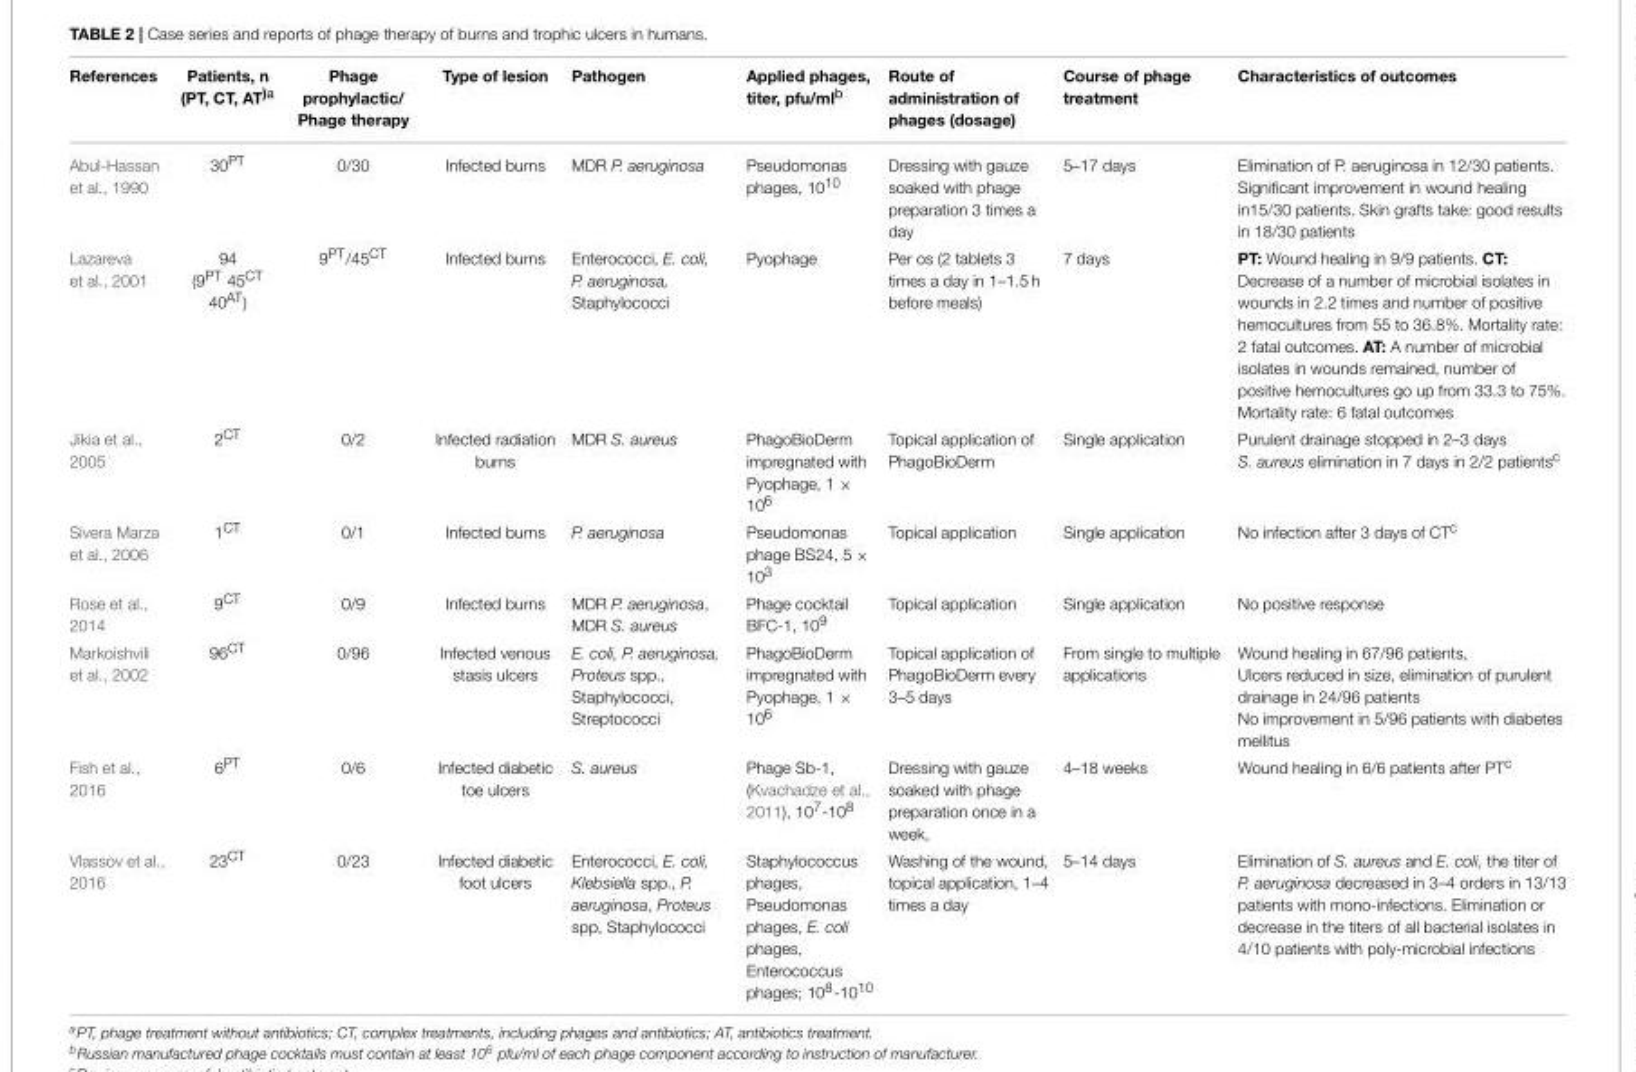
<table><thead><tr><td>References</td><td>Patients, n (PT, CT, AT)<sup>a</sup></td><td>Phage prophylactic/ Phage therapy</td><td>Type of lesion</td><td>Pathogen</td><td>Applied phages, titer, pfu/ml<sup>b</sup></td><td>Route of administration of phages (dosage)</td><td>Course of phage treatment</td><td>Characteristics of outcomes</td></tr></thead><tbody><tr><td>Abul-Hassan et al., 1990</td><td>30<sup>PT</sup></td><td>0/30</td><td>Infected burns</td><td>MDR P. aeruginosa</td><td>Pseudomonas phages, 10<sup>10</sup></td><td>Dressing with gauze soaked with phage preparation 3 times a day</td><td>5–17 days</td><td>Elimination of P. aeruginosa in 12/30 patients. Significant improvement in wound healing in15/30 patients. Skin grafts take: good results in 18/30 patients</td></tr><tr><td>Lazareva et al., 2001</td><td>94 (9<sup>PT</sup> 45<sup>CT</sup> 40<sup>AT</sup>)</td><td>9<sup>PT</sup>/45<sup>CT</sup></td><td>Infected burns</td><td>Enterococci, E. coli, P. aeruginosa, Staphylococci</td><td>Pyophage</td><td>Per os (2 tablets 3 times a day in 1–1.5 h before meals)</td><td>7 days</td><td>PT: Wound healing in 9/9 patients. CT: Decrease of a number of microbial isolates in wounds in 2.2 times and number of positive hemocultures from 55 to 36.8%. Mortality rate: 2 fatal outcomes. AT: A number of microbial isolates in wounds remained, number of positive hemocultures go up from 33.3 to 75%. Mortality rate: 6 fatal outcomes</td></tr><tr><td>Jikia et al., 2005</td><td>2<sup>CT</sup></td><td>0/2</td><td>Infected radiation burns</td><td>MDR S. aureus</td><td>PhagoBioDerm impregnated with Pyophage, 1 × 10<sup>6</sup></td><td>Topical application of PhagoBioDerm</td><td>Single application</td><td>Purulent drainage stopped in 2–3 days S. aureus elimination in 7 days in 2/2 patients<sup>c</sup></td></tr><tr><td>Sivera Marza et al., 2006</td><td>1<sup>CT</sup></td><td>0/1</td><td>Infected burns</td><td>P. aeruginosa</td><td>Pseudomonas phage BS24, 5 × 10<sup>3</sup></td><td>Topical application</td><td>Single application</td><td>No infection after 3 days of CT<sup>c</sup></td></tr><tr><td>Rose et al., 2014</td><td>9<sup>CT</sup></td><td>0/9</td><td>Infected burns</td><td>MDR P. aeruginosa, MDR S. aureus</td><td>Phage cocktail BFC-1, 10<sup>9</sup></td><td>Topical application</td><td>Single application</td><td>No positive response</td></tr><tr><td>Markoishvili et al., 2002</td><td>96<sup>CT</sup></td><td>0/96</td><td>Infected venous stasis ulcers</td><td>E. coli, P. aeruginosa, Proteus spp., Staphylococci, Streptococci</td><td>PhagoBioDerm impregnated with Pyophage, 1 × 10<sup>6</sup></td><td>Topical application of PhagoBioDerm every 3–5 days</td><td>From single to multiple applications</td><td>Wound healing in 67/96 patients, Ulcers reduced in size, elimination of purulent drainage in 24/96 patients No improvement in 5/96 patients with diabetes mellitus</td></tr><tr><td>Fish et al., 2016</td><td>6<sup>PT</sup></td><td>0/6</td><td>Infected diabetic toe ulcers</td><td>S. aureus</td><td>Phage Sb-1, (Kvachadze et al., 2011), 10<sup>7</sup>-10<sup>8</sup></td><td>Dressing with gauze soaked with phage preparation once in a week,</td><td>4–18 weeks</td><td>Wound healing in 6/6 patients after PT<sup>c</sup></td></tr><tr><td>Vlassov et al., 2016</td><td>23<sup>CT</sup></td><td>0/23</td><td>Infected diabetic foot ulcers</td><td>Enterococci, E. coli, Klebsiella spp., P. aeruginosa, Proteus spp, Staphylococci</td><td>Staphylococcus phages, Pseudomonas phages, E. coli phages, Enterococcus phages; 10<sup>8</sup>-10<sup>10</sup></td><td>Washing of the wound, topical application, 1–4 times a day</td><td>5–14 days</td><td>Elimination of S. aureus and E. coli, the titer of P. aeruginosa decreased in 3–4 orders in 13/13 patients with mono-infections. Elimination or decrease in the titers of all bacterial isolates in 4/10 patients with poly-microbial infections</td></tr></tbody></table>